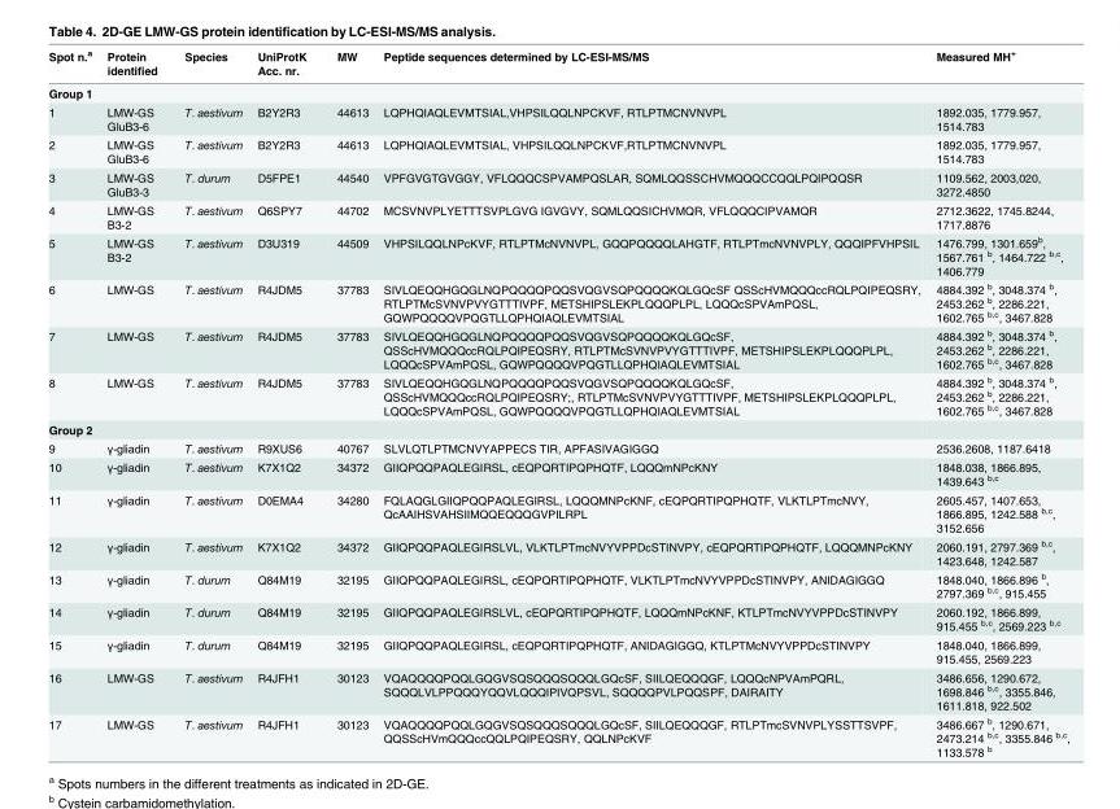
<table><thead><tr><td>Spot n.<sup>a</sup></td><td>Protein identified</td><td>Species</td><td>UniProtK Acc. nr.</td><td>MW</td><td>Peptide sequences determined by LC-ESI-MS/MS</td><td>Measured MH<sup>+</sup></td></tr></thead><tbody><tr><td colspan="7">Group 1</td></tr><tr><td>1</td><td>LMW-GS GluB3-6</td><td>T. aestivum</td><td>B2Y2R3</td><td>44613</td><td>LQPHQIAQLEVMTSIAL,VHPSILQQLNPCKVF, RTLPTMCNVNVPL</td><td>1892.035, 1779.957, 1514.783</td></tr><tr><td>2</td><td>LMW-GS GluB3-6</td><td>T. aestivum</td><td>B2Y2R3</td><td>44613</td><td>LQPHQIAQLEVMTSIAL, VHPSILQQLNPCKVF,RTLPTMCNVNVPL</td><td>1892.035, 1779.957, 1514.783</td></tr><tr><td>3</td><td>LMW-GS GluB3-3</td><td>T. durum</td><td>D5FPE1</td><td>44540</td><td>VPFGVGTGVGGY, VFLQQQCSPVAMPQSLAR, SQMLQQSSCHVMQQQCCQQLPQIPQQSR</td><td>1109.562, 2003,020, 3272.4850</td></tr><tr><td>4</td><td>LMW-GS B3-2</td><td>T. aestivum</td><td>Q6SPY7</td><td>44702</td><td>MCSVNVPLYETTTSVPLGVG IGVGVY, SQMLQQSICHVMQR, VFLQQQCIPVAMQR</td><td>2712.3622, 1745.8244, 1717.8876</td></tr><tr><td>5</td><td>LMW-GS B3-2</td><td>T. aestivum</td><td>D3U319</td><td>44509</td><td>VHPSILQQLNPcKVF, RTLPTMcNVNVPL, GQQPQQQQLAHGTF, RTLPTmcNVNVPLY, QQQIPFVHPSIL</td><td>1476.799, 1301.659<sup>b</sup>, 1567.761 <sup>b</sup>, 1464.722 <sup>b,c</sup>, 1406.779</td></tr><tr><td>6</td><td>LMW-GS</td><td>T. aestivum</td><td>R4JDM5</td><td>37783</td><td>SIVLQEQQHGQGLNQPQQQQPQQSVQGVSQPQQQQKQLGQcSF QSScHVMQQQccRQLPQIPEQSRY, RTLPTMcSVNVPVYGTTTIVPF, METSHIPSLEKPLQQQPLPL, LQQQcSPVAmPQSL, GQWPQQQQVPQGTLLQPHQIAQLEVMTSIAL</td><td>4884.392 <sup>b</sup>, 3048.374 <sup>b</sup>, 2453.262 <sup>b</sup>, 2286.221, 1602.765 <sup>b,c</sup>, 3467.828</td></tr><tr><td>7</td><td>LMW-GS</td><td>T. aestivum</td><td>R4JDM5</td><td>37783</td><td>SIVLQEQQHGQGLNQPQQQQPQQSVQGVSQPQQQQKQLGQcSF, QSScHVMQQQccRQLPQIPEQSRY, RTLPTMcSVNVPVYGTTTIVPF, METSHIPSLEKPLQQQPLPL, LQQQcSPVAmPQSL, GQWPQQQQVPQGTLLQPHQIAQLEVMTSIAL</td><td>4884.392 <sup>b</sup>, 3048.374 <sup>b</sup>, 2453.262 <sup>b</sup>, 2286.221, 1602.765 <sup>b,c</sup>, 3467.828</td></tr><tr><td>8</td><td>LMW-GS</td><td>T. aestivum</td><td>R4JDM5</td><td>37783</td><td>SIVLQEQQHGQGLNQPQQQQPQQSVQGVSQPQQQQKQLGQcSF, QSScHVMQQQccRQLPQIPEQSRY;, RTLPTMcSVNVPVYGTTTIVPF, METSHIPSLEKPLQQQPLPL, LQQQcSPVAmPQSL, GQWPQQQQVPQGTLLQPHQIAQLEVMTSIAL</td><td>4884.392 <sup>b</sup>, 3048.374 <sup>b</sup>, 2453.262 <sup>b</sup>, 2286.221, 1602.765 <sup>b,c</sup>, 3467.828</td></tr><tr><td colspan="7">Group 2</td></tr><tr><td>9</td><td>γ-gliadin</td><td>T. aestivum</td><td>R9XUS6</td><td>40767</td><td>SLVLQTLPTMCNVYAPPECS TIR, APFASIVAGIGGQ</td><td>2536.2608, 1187.6418</td></tr><tr><td>10</td><td>γ-gliadin</td><td>T. aestivum</td><td>K7X1Q2</td><td>34372</td><td>GIIQPQQPAQLEGIRSL, cEQPQRTIPQPHQTF, LQQQmNPcKNY</td><td>1848.038, 1866.895, 1439.643 <sup>b,c</sup></td></tr><tr><td>11</td><td>γ-gliadin</td><td>T. aestivum</td><td>D0EMA4</td><td>34280</td><td>FQLAQGLGIIQPQQPAQLEGIRSL, LQQQMNPcKNF, cEQPQRTIPQPHQTF, VLKTLPTmcNVY, QcAAIHSVAHSIIMQQEQQQGVPILRPL</td><td>2605.457, 1407.653, 1866.895, 1242.588 <sup>b,c</sup>, 3152.656</td></tr><tr><td>12</td><td>γ-gliadin</td><td>T. aestivum</td><td>K7X1Q2</td><td>34372</td><td>GIIQPQQPAQLEGIRSLVL, VLKTLPTmcNVYVPPDcSTINVPY, cEQPQRTIPQPHQTF, LQQQMNPcKNY</td><td>2060.191, 2797.369 <sup>b,c</sup>, 1423.648, 1242.587</td></tr><tr><td>13</td><td>γ-gliadin</td><td>T. durum</td><td>Q84M19</td><td>32195</td><td>GIIQPQQPAQLEGIRSL, cEQPQRTIPQPHQTF, VLKTLPTmcNVYVPPDcSTINVPY, ANIDAGIGGQ</td><td>1848.040, 1866.896 <sup>b</sup>, 2797.369 <sup>b,c</sup>, 915.455</td></tr><tr><td>14</td><td>γ-gliadin</td><td>T. durum</td><td>Q84M19</td><td>32195</td><td>GIIQPQQPAQLEGIRSLVL, cEQPQRTIPQPHQTF, LQQQmNPcKNF, KTLPTmcNVYVPPDcSTINVPY</td><td>2060.192, 1866.899, 915.455 <sup>b,c</sup>, 2569.223 <sup>b,c</sup></td></tr><tr><td>15</td><td>γ-gliadin</td><td>T. durum</td><td>Q84M19</td><td>32195</td><td>GIIQPQQPAQLEGIRSL, cEQPQRTIPQPHQTF, ANIDAGIGGQ, KTLPTMcNVYVPPDcSTINVPY</td><td>1848.040, 1866.899, 915.455, 2569.223</td></tr><tr><td>16</td><td>LMW-GS</td><td>T. aestivum</td><td>R4JFH1</td><td>30123</td><td>VQAQQQQPQQLGQGVSQSQQQSQQQLGQcSF, SIILQEQQQGF, LQQQcNPVAmPQRL, SQQQLVLPPQQQYQQVLQQQIPIVQPSVL, SQQQQPVLPQQSPF, DAIRAITY</td><td>3486.656, 1290.672, 1698.846 <sup>b,c</sup>, 3355.846, 1611.818, 922.502</td></tr><tr><td>17</td><td>LMW-GS</td><td>T. aestivum</td><td>R4JFH1</td><td>30123</td><td>VQAQQQQPQQLGQGVSQSQQQSQQQLGQcSF, SIILQEQQQGF, RTLPTmcSVNVPLYSSTTSVPF, QQSScHVmQQQccQQLPQIPEQSRY, QQLNPcKVF</td><td>3486.667 <sup>b</sup>, 1290.671, 2473.214 <sup>b,c</sup>, 3355.846 <sup>b,c</sup>, 1133.578 <sup>b</sup></td></tr></tbody></table>